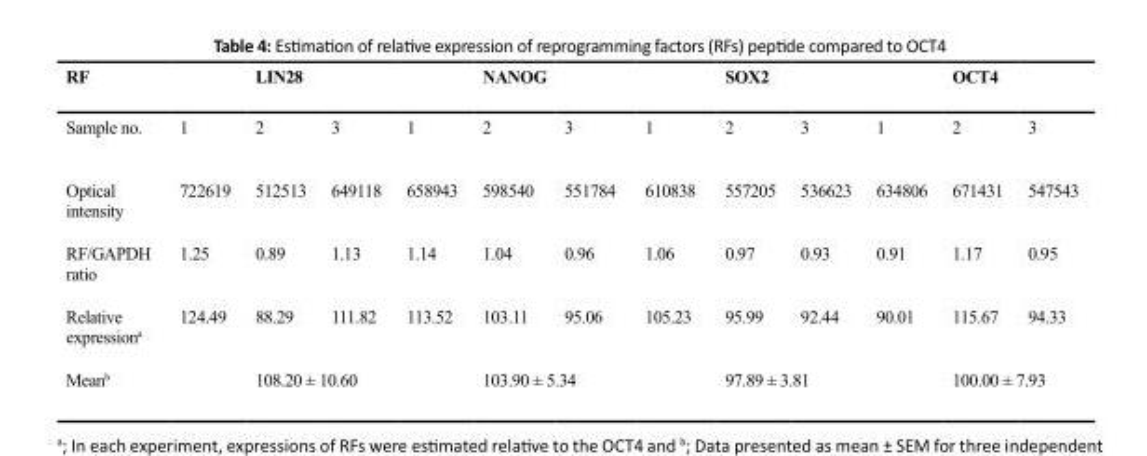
<table><thead><tr><td rowspan="2">RF Sample no.</td><td colspan="3">LIN28</td><td colspan="3">NANOG</td><td colspan="3">SOX2</td><td colspan="3">OCT4</td></tr><tr><td>1</td><td>2</td><td>3</td><td>1</td><td>2</td><td>3</td><td>1</td><td>2</td><td>3</td><td>1</td><td>2</td><td>3</td></tr></thead><tbody><tr><td>Optical intensity</td><td>722619</td><td>512513</td><td>649118</td><td>658943</td><td>598540</td><td>551784</td><td>610838</td><td>557205</td><td>536623</td><td>634806</td><td>671431</td><td>547543</td></tr><tr><td>RF/GAPDH ratio</td><td>1.25</td><td>0.89</td><td>1.13</td><td>1.14</td><td>1.04</td><td>0.96</td><td>1.06</td><td>0.97</td><td>0.93</td><td>0.91</td><td>1.17</td><td>0.95</td></tr><tr><td>Relative expression<sup>a</sup></td><td>124.49</td><td>88.29</td><td>111.82</td><td>113.52</td><td>103.11</td><td>95.06</td><td>105.23</td><td>95.99</td><td>92.44</td><td>90.01</td><td>115.67</td><td>94.33</td></tr><tr><td>Mean<sup>b</sup></td><td colspan="3">108.20 ± 10.60</td><td colspan="3">103.90 ± 5.34</td><td colspan="3">97.89 ± 3.81</td><td colspan="3">100.00 ± 7.93</td></tr></tbody></table>